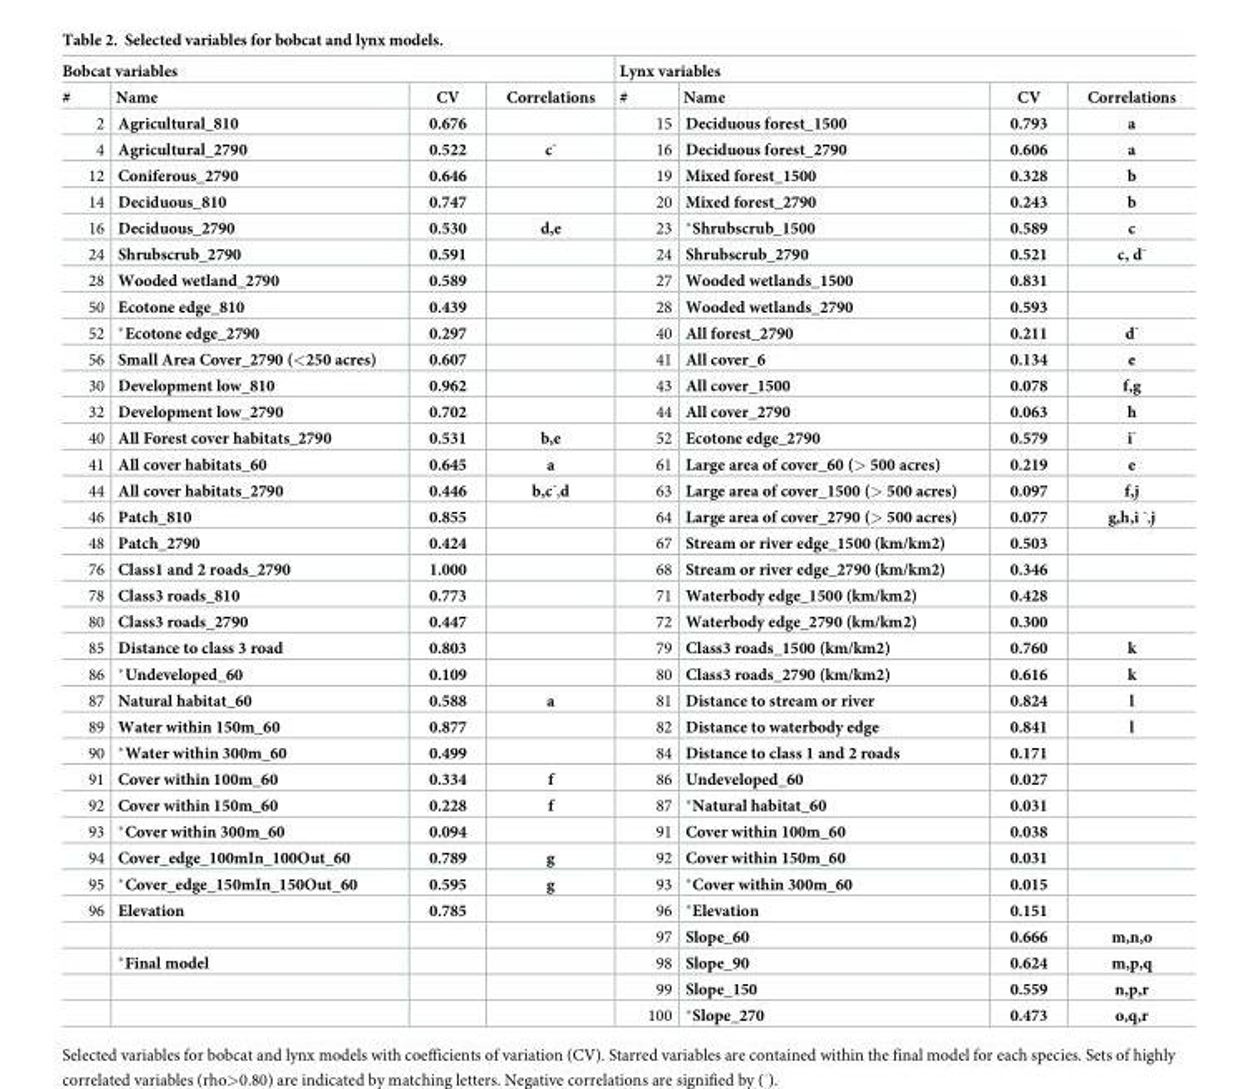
<table><thead><tr><td colspan="4">Bobcat variables</td><td colspan="4">Lynx variables</td></tr><tr><td>#</td><td>Name</td><td>CV</td><td>Correlations</td><td>#</td><td>Name</td><td>CV</td><td>Correlations</td></tr></thead><tbody><tr><td>2</td><td>Agricultural_810</td><td>0.676</td><td></td><td>15</td><td>Deciduous forest_1500</td><td>0.793</td><td>a</td></tr><tr><td>4</td><td>Agricultural_2790</td><td>0.522</td><td>c<sup>-</sup></td><td>16</td><td>Deciduous forest_2790</td><td>0.606</td><td>a</td></tr><tr><td>12</td><td>Coniferous_2790</td><td>0.646</td><td></td><td>19</td><td>Mixed forest_1500</td><td>0.328</td><td>b</td></tr><tr><td>14</td><td>Deciduous_810</td><td>0.747</td><td></td><td>20</td><td>Mixed forest_2790</td><td>0.243</td><td>b</td></tr><tr><td>16</td><td>Deciduous_2790</td><td>0.530</td><td>d,e</td><td>23</td><td>*Shrubscrub_1500</td><td>0.589</td><td>c</td></tr><tr><td>24</td><td>Shrubscrub_2790</td><td>0.591</td><td></td><td>24</td><td>Shrubscrub_2790</td><td>0.521</td><td>c, d<sup>-</sup></td></tr><tr><td>28</td><td>Wooded wetland_2790</td><td>0.589</td><td></td><td>27</td><td>Wooded wetlands_1500</td><td>0.831</td><td></td></tr><tr><td>50</td><td>Ecotone edge_810</td><td>0.439</td><td></td><td>28</td><td>Wooded wetlands_2790</td><td>0.593</td><td></td></tr><tr><td>52</td><td>*Ecotone edge_2790</td><td>0.297</td><td></td><td>40</td><td>All forest_2790</td><td>0.211</td><td>d<sup>-</sup></td></tr><tr><td>56</td><td>Small Area Cover_2790 (&lt;250 acres)</td><td>0.607</td><td></td><td>41</td><td>All cover_6</td><td>0.134</td><td>e</td></tr><tr><td>30</td><td>Development low_810</td><td>0.962</td><td></td><td>43</td><td>All cover_1500</td><td>0.078</td><td>f,g</td></tr><tr><td>32</td><td>Development low_2790</td><td>0.702</td><td></td><td>44</td><td>All cover_2790</td><td>0.063</td><td>h</td></tr><tr><td>40</td><td>All Forest cover habitats_2790</td><td>0.531</td><td>b,e</td><td>52</td><td>Ecotone edge_2790</td><td>0.579</td><td>i<sup>-</sup></td></tr><tr><td>41</td><td>All cover habitats_60</td><td>0.645</td><td>a</td><td>61</td><td>Large area of cover_60 (&gt; 500 acres)</td><td>0.219</td><td>e</td></tr><tr><td>44</td><td>All cover habitats_2790</td><td>0.446</td><td>b,c<sup>-</sup>,d</td><td>63</td><td>Large area of cover_1500 (&gt; 500 acres)</td><td>0.097</td><td>f,j</td></tr><tr><td>46</td><td>Patch_810</td><td>0.855</td><td></td><td>64</td><td>Large area of cover_2790 (&gt; 500 acres)</td><td>0.077</td><td>g,h,i <sup>-</sup>,j</td></tr><tr><td>48</td><td>Patch_2790</td><td>0.424</td><td></td><td>67</td><td>Stream or river edge_1500 (km/km2)</td><td>0.503</td><td></td></tr><tr><td>76</td><td>Class1 and 2 roads_2790</td><td>1.000</td><td></td><td>68</td><td>Stream or river edge_2790 (km/km2)</td><td>0.346</td><td></td></tr><tr><td>78</td><td>Class3 roads_810</td><td>0.773</td><td></td><td>71</td><td>Waterbody edge_1500 (km/km2)</td><td>0.428</td><td></td></tr><tr><td>80</td><td>Class3 roads_2790</td><td>0.447</td><td></td><td>72</td><td>Waterbody edge_2790 (km/km2)</td><td>0.300</td><td></td></tr><tr><td>85</td><td>Distance to class 3 road</td><td>0.803</td><td></td><td>79</td><td>Class3 roads_1500 (km/km2)</td><td>0.760</td><td>k</td></tr><tr><td>86</td><td>*Undeveloped_60</td><td>0.109</td><td></td><td>80</td><td>Class3 roads_2790 (km/km2)</td><td>0.616</td><td>k</td></tr><tr><td>87</td><td>Natural habitat_60</td><td>0.588</td><td>a</td><td>81</td><td>Distance to stream or river</td><td>0.824</td><td>l</td></tr><tr><td>89</td><td>Water within 150m_60</td><td>0.877</td><td></td><td>82</td><td>Distance to waterbody edge</td><td>0.841</td><td>l</td></tr><tr><td>90</td><td>*Water within 300m_60</td><td>0.499</td><td></td><td>84</td><td>Distance to class 1 and 2 roads</td><td>0.171</td><td></td></tr><tr><td>91</td><td>Cover within 100m_60</td><td>0.334</td><td>f</td><td>86</td><td>Undeveloped_60</td><td>0.027</td><td></td></tr><tr><td>92</td><td>Cover within 150m_60</td><td>0.228</td><td>f</td><td>87</td><td>*Natural habitat_60</td><td>0.031</td><td></td></tr><tr><td>93</td><td>*Cover within 300m_60</td><td>0.094</td><td></td><td>91</td><td>Cover within 100m_60</td><td>0.038</td><td></td></tr><tr><td>94</td><td>Cover_edge_100mIn_100Out_60</td><td>0.789</td><td>g</td><td>92</td><td>Cover within 150m_60</td><td>0.031</td><td></td></tr><tr><td>95</td><td>*Cover_edge_150mIn_150Out_60</td><td>0.595</td><td>g</td><td>93</td><td>*Cover within 300m_60</td><td>0.015</td><td></td></tr><tr><td rowspan="5">96</td><td>Elevation</td><td>0.785</td><td></td><td>96</td><td>*Elevation</td><td>0.151</td><td></td></tr><tr><td></td><td></td><td></td><td>97</td><td>Slope_60</td><td>0.666</td><td>m,n,o</td></tr><tr><td>*Final model</td><td></td><td></td><td>98</td><td>Slope_90</td><td>0.624</td><td>m,p,q</td></tr><tr><td></td><td></td><td></td><td>99</td><td>Slope_150</td><td>0.559</td><td>n,p,r</td></tr><tr><td></td><td></td><td></td><td>100</td><td>*Slope_270</td><td>0.473</td><td>o,q,r</td></tr></tbody></table>